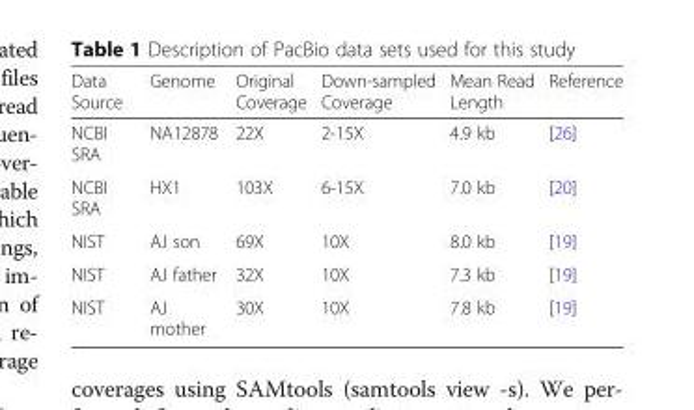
<table><thead><tr><td>Data Source</td><td>Genome</td><td>Original Coverage</td><td>Down-sampled Coverage</td><td>Mean Read Length</td><td>Reference</td></tr></thead><tbody><tr><td>NCBI SRA</td><td>NA12878</td><td>22X</td><td>2-15X</td><td>4.9 kb</td><td>[26]</td></tr><tr><td>NCBI SRA</td><td>HX1</td><td>103X</td><td>6-15X</td><td>7.0 kb</td><td>[20]</td></tr><tr><td>NIST</td><td>AJ son</td><td>69X</td><td>10X</td><td>8.0 kb</td><td>[19]</td></tr><tr><td>NIST</td><td>AJ father</td><td>32X</td><td>10X</td><td>7.3 kb</td><td>[19]</td></tr><tr><td>NIST</td><td>AJ mother</td><td>30X</td><td>10X</td><td>7.8 kb</td><td>[19]</td></tr></tbody></table>